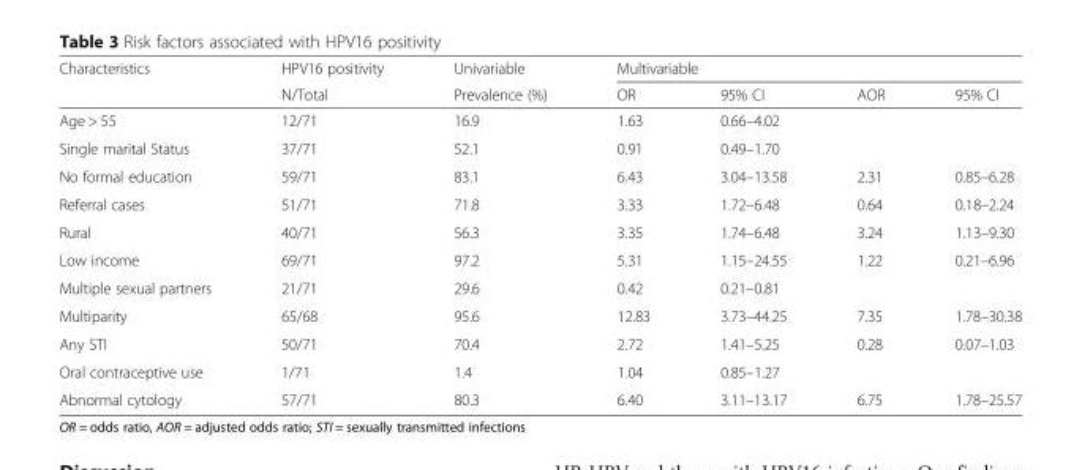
<table><thead><tr><td rowspan="2">Characteristics</td><td rowspan="2">HPV16 positivity N/Total</td><td rowspan="2">Univariable Prevalence (%)</td><td colspan="4">Multivariable</td></tr><tr><td>OR</td><td>95% CI</td><td>AOR</td><td>95% CI</td></tr></thead><tbody><tr><td>Age &gt; 55</td><td>12/71</td><td>16.9</td><td>1.63</td><td>0.66–4.02</td><td></td><td></td></tr><tr><td>Single marital Status</td><td>37/71</td><td>52.1</td><td>0.91</td><td>0.49–1.70</td><td></td><td></td></tr><tr><td>No formal education</td><td>59/71</td><td>83.1</td><td>6.43</td><td>3.04–13.58</td><td>2.31</td><td>0.85–6.28</td></tr><tr><td>Referral cases</td><td>51/71</td><td>71.8</td><td>3.33</td><td>1.72–6.48</td><td>0.64</td><td>0.18–2.24</td></tr><tr><td>Rural</td><td>40/71</td><td>56.3</td><td>3.35</td><td>1.74–6.48</td><td>3.24</td><td>1.13–9.30</td></tr><tr><td>Low income</td><td>69/71</td><td>97.2</td><td>5.31</td><td>1.15–24.55</td><td>1.22</td><td>0.21–6.96</td></tr><tr><td>Multiple sexual partners</td><td>21/71</td><td>29.6</td><td>0.42</td><td>0.21–0.81</td><td></td><td></td></tr><tr><td>Multiparity</td><td>65/68</td><td>95.6</td><td>12.83</td><td>3.73–44.25</td><td>7.35</td><td>1.78–30.38</td></tr><tr><td>Any STI</td><td>50/71</td><td>70.4</td><td>2.72</td><td>1.41–5.25</td><td>0.28</td><td>0.07–1.03</td></tr><tr><td>Oral contraceptive use</td><td>1/71</td><td>1.4</td><td>1.04</td><td>0.85–1.27</td><td></td><td></td></tr><tr><td>Abnormal cytology</td><td>57/71</td><td>80.3</td><td>6.40</td><td>3.11–13.17</td><td>6.75</td><td>1.78–25.57</td></tr></tbody></table>